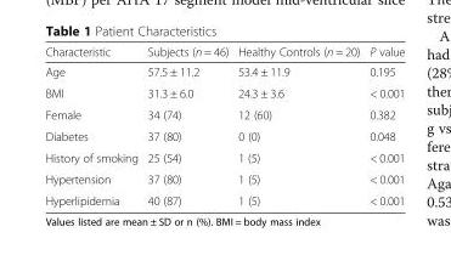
<table><thead><tr><td>Characteristic</td><td>Subjects (n = 46)</td><td>Healthy Controls (n = 20)</td><td>P value</td></tr></thead><tbody><tr><td>Age</td><td>57.5 ± 11.2</td><td>53.4 ± 11.9</td><td>0.195</td></tr><tr><td>BMI</td><td>31.3 ± 6.0</td><td>24.3 ± 3.6</td><td>&lt; 0.001</td></tr><tr><td>Female</td><td>34 (74)</td><td>12 (60)</td><td>0.382</td></tr><tr><td>Diabetes</td><td>37 (80)</td><td>0 (0)</td><td>0.048</td></tr><tr><td>History of smoking</td><td>25 (54)</td><td>1 (5)</td><td>&lt; 0.001</td></tr><tr><td>Hypertension</td><td>37 (80)</td><td>1 (5)</td><td>&lt; 0.001</td></tr><tr><td>Hyperlipidemia</td><td>40 (87)</td><td>1 (5)</td><td>&lt; 0.001</td></tr></tbody></table>